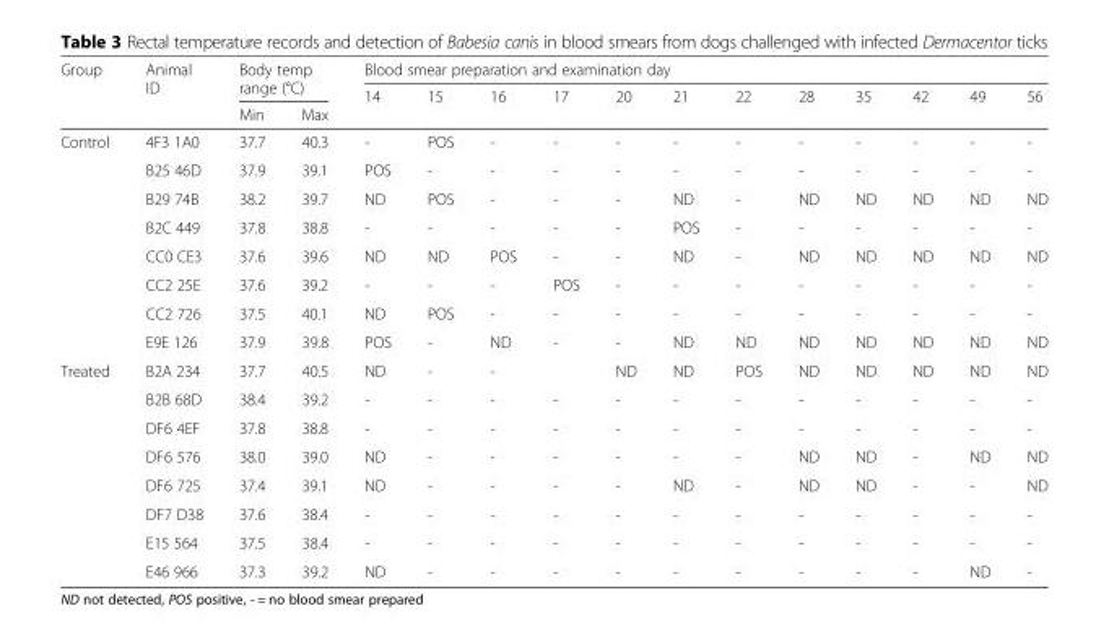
<table><thead><tr><td rowspan="3">Group</td><td rowspan="3">Animal ID</td><td rowspan="2" colspan="2">Body temp range (°C)</td><td colspan="12">Blood smear preparation and examination day</td></tr><tr><td rowspan="2">14</td><td rowspan="2">15</td><td rowspan="2">16</td><td rowspan="2">17</td><td rowspan="2">20</td><td rowspan="2">21</td><td rowspan="2">22</td><td rowspan="2">28</td><td rowspan="2">35</td><td rowspan="2">42</td><td rowspan="2">49</td><td rowspan="2">56</td></tr><tr><td>Min</td><td>Max</td></tr></thead><tbody><tr><td rowspan="8">Control</td><td>4F3 1A0</td><td>37.7</td><td>40.3</td><td>-</td><td>POS</td><td>-</td><td>-</td><td>-</td><td>-</td><td>-</td><td>-</td><td>-</td><td>-</td><td>-</td><td>-</td></tr><tr><td>B25 46D</td><td>37.9</td><td>39.1</td><td>POS</td><td>-</td><td>-</td><td>-</td><td>-</td><td>-</td><td>-</td><td>-</td><td>-</td><td>-</td><td>-</td><td>-</td></tr><tr><td>B29 74B</td><td>38.2</td><td>39.7</td><td>ND</td><td>POS</td><td>-</td><td>-</td><td>-</td><td>ND</td><td>-</td><td>ND</td><td>ND</td><td>ND</td><td>ND</td><td>ND</td></tr><tr><td>B2C 449</td><td>37.8</td><td>38.8</td><td>-</td><td>-</td><td>-</td><td>-</td><td>-</td><td>POS</td><td>-</td><td>-</td><td>-</td><td>-</td><td>-</td><td>-</td></tr><tr><td>CC0 CE3</td><td>37.6</td><td>39.6</td><td>ND</td><td>ND</td><td>POS</td><td>-</td><td>-</td><td>ND</td><td>-</td><td>ND</td><td>ND</td><td>ND</td><td>ND</td><td>ND</td></tr><tr><td>CC2 25E</td><td>37.6</td><td>39.2</td><td>-</td><td>-</td><td>-</td><td>POS</td><td>-</td><td>-</td><td>-</td><td>-</td><td>-</td><td>-</td><td>-</td><td>-</td></tr><tr><td>CC2 726</td><td>37.5</td><td>40.1</td><td>ND</td><td>POS</td><td>-</td><td>-</td><td>-</td><td>-</td><td>-</td><td>-</td><td>-</td><td>-</td><td>-</td><td>-</td></tr><tr><td>E9E 126</td><td>37.9</td><td>39.8</td><td>POS</td><td>-</td><td>ND</td><td>-</td><td>-</td><td>ND</td><td>ND</td><td>ND</td><td>ND</td><td>ND</td><td>ND</td><td>ND</td></tr><tr><td rowspan="8">Treated</td><td>B2A 234</td><td>37.7</td><td>40.5</td><td>ND</td><td>-</td><td>-</td><td></td><td>ND</td><td>ND</td><td>POS</td><td>ND</td><td>ND</td><td>ND</td><td>ND</td><td>ND</td></tr><tr><td>B2B 68D</td><td>38.4</td><td>39.2</td><td>-</td><td>-</td><td>-</td><td>-</td><td>-</td><td>-</td><td>-</td><td>-</td><td>-</td><td>-</td><td>-</td><td>-</td></tr><tr><td>DF6 4EF</td><td>37.8</td><td>38.8</td><td>-</td><td>-</td><td>-</td><td>-</td><td>-</td><td>-</td><td>-</td><td>-</td><td>-</td><td>-</td><td>-</td><td>-</td></tr><tr><td>DF6 576</td><td>38.0</td><td>39.0</td><td>ND</td><td>-</td><td>-</td><td>-</td><td>-</td><td>-</td><td>-</td><td>ND</td><td>ND</td><td>-</td><td>ND</td><td>ND</td></tr><tr><td>DF6 725</td><td>37.4</td><td>39.1</td><td>ND</td><td>-</td><td>-</td><td>-</td><td>-</td><td>ND</td><td>-</td><td>ND</td><td>ND</td><td>-</td><td>-</td><td>ND</td></tr><tr><td>DF7 D38</td><td>37.6</td><td>38.4</td><td>-</td><td>-</td><td>-</td><td>-</td><td>-</td><td>-</td><td>-</td><td>-</td><td>-</td><td>-</td><td>-</td><td>-</td></tr><tr><td>E15 564</td><td>37.5</td><td>38.4</td><td>-</td><td>-</td><td>-</td><td>-</td><td>-</td><td>-</td><td>-</td><td>-</td><td>-</td><td>-</td><td>-</td><td>-</td></tr><tr><td>E46 966</td><td>37.3</td><td>39.2</td><td>ND</td><td>-</td><td>-</td><td>-</td><td>-</td><td>-</td><td>-</td><td>-</td><td>-</td><td>-</td><td>ND</td><td>-</td></tr></tbody></table>